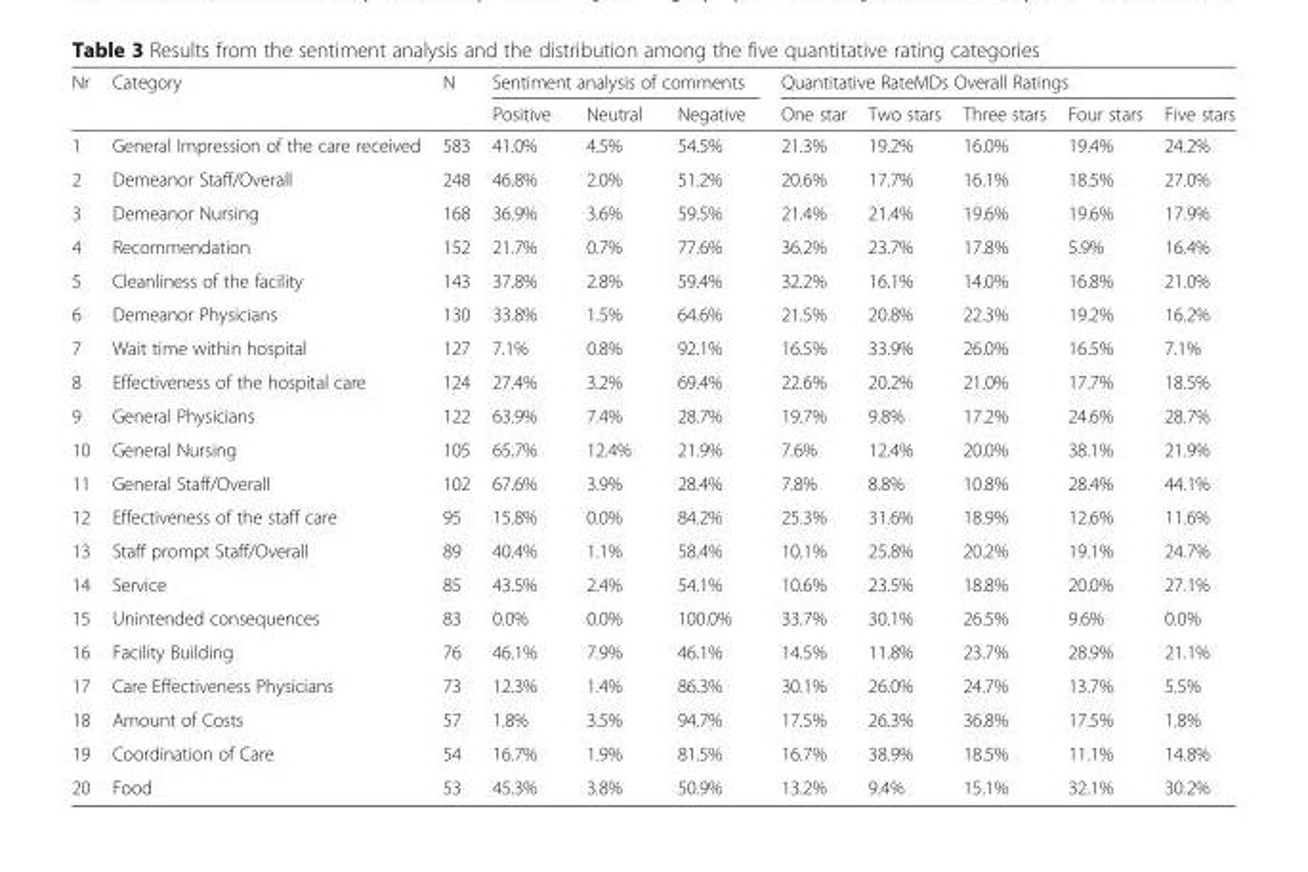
<table><thead><tr><td rowspan="2">Nr</td><td rowspan="2">Category</td><td rowspan="2">N</td><td colspan="3">Sentiment analysis of comments</td><td colspan="5">Quantitative RateMDs Overall Ratings</td></tr><tr><td>Positive</td><td>Neutral</td><td>Negative</td><td>One star</td><td>Two stars</td><td>Three stars</td><td>Four stars</td><td>Five stars</td></tr></thead><tbody><tr><td>1</td><td>General Impression of the care received</td><td>583</td><td>41.0%</td><td>4.5%</td><td>54.5%</td><td>21.3%</td><td>19.2%</td><td>16.0%</td><td>19.4%</td><td>24.2%</td></tr><tr><td>2</td><td>Demeanor Staff/Overall</td><td>248</td><td>46.8%</td><td>2.0%</td><td>51.2%</td><td>20.6%</td><td>17.7%</td><td>16.1%</td><td>18.5%</td><td>27.0%</td></tr><tr><td>3</td><td>Demeanor Nursing</td><td>168</td><td>36.9%</td><td>3.6%</td><td>59.5%</td><td>21.4%</td><td>21.4%</td><td>19.6%</td><td>19.6%</td><td>17.9%</td></tr><tr><td>4</td><td>Recommendation</td><td>152</td><td>21.7%</td><td>0.7%</td><td>77.6%</td><td>36.2%</td><td>23.7%</td><td>17.8%</td><td>5.9%</td><td>16.4%</td></tr><tr><td>5</td><td>Cleanliness of the facility</td><td>143</td><td>37.8%</td><td>2.8%</td><td>59.4%</td><td>32.2%</td><td>16.1%</td><td>14.0%</td><td>16.8%</td><td>21.0%</td></tr><tr><td>6</td><td>Demeanor Physicians</td><td>130</td><td>33.8%</td><td>1.5%</td><td>64.6%</td><td>21.5%</td><td>20.8%</td><td>22.3%</td><td>19.2%</td><td>16.2%</td></tr><tr><td>7</td><td>Wait time within hospital</td><td>127</td><td>7.1%</td><td>0.8%</td><td>92.1%</td><td>16.5%</td><td>33.9%</td><td>26.0%</td><td>16.5%</td><td>7.1%</td></tr><tr><td>8</td><td>Effectiveness of the hospital care</td><td>124</td><td>27.4%</td><td>3.2%</td><td>69.4%</td><td>22.6%</td><td>20.2%</td><td>21.0%</td><td>17.7%</td><td>18.5%</td></tr><tr><td>9</td><td>General Physicians</td><td>122</td><td>63.9%</td><td>7.4%</td><td>28.7%</td><td>19.7%</td><td>9.8%</td><td>17.2%</td><td>24.6%</td><td>28.7%</td></tr><tr><td>10</td><td>General Nursing</td><td>105</td><td>65.7%</td><td>12.4%</td><td>21.9%</td><td>7.6%</td><td>12.4%</td><td>20.0%</td><td>38.1%</td><td>21.9%</td></tr><tr><td>11</td><td>General Staff/Overall</td><td>102</td><td>67.6%</td><td>3.9%</td><td>28.4%</td><td>7.8%</td><td>8.8%</td><td>10.8%</td><td>28.4%</td><td>44.1%</td></tr><tr><td>12</td><td>Effectiveness of the staff care</td><td>95</td><td>15.8%</td><td>0.0%</td><td>84.2%</td><td>25.3%</td><td>31.6%</td><td>18.9%</td><td>12.6%</td><td>11.6%</td></tr><tr><td>13</td><td>Staff prompt Staff/Overall</td><td>89</td><td>40.4%</td><td>1.1%</td><td>58.4%</td><td>10.1%</td><td>25.8%</td><td>20.2%</td><td>19.1%</td><td>24.7%</td></tr><tr><td>14</td><td>Service</td><td>85</td><td>43.5%</td><td>2.4%</td><td>54.1%</td><td>10.6%</td><td>23.5%</td><td>18.8%</td><td>20.0%</td><td>27.1%</td></tr><tr><td>15</td><td>Unintended consequences</td><td>83</td><td>0.0%</td><td>0.0%</td><td>100.0%</td><td>33.7%</td><td>30.1%</td><td>26.5%</td><td>9.6%</td><td>0.0%</td></tr><tr><td>16</td><td>Facility Building</td><td>76</td><td>46.1%</td><td>7.9%</td><td>46.1%</td><td>14.5%</td><td>11.8%</td><td>23.7%</td><td>28.9%</td><td>21.1%</td></tr><tr><td>17</td><td>Care Effectiveness Physicians</td><td>73</td><td>12.3%</td><td>1.4%</td><td>86.3%</td><td>30.1%</td><td>26.0%</td><td>24.7%</td><td>13.7%</td><td>5.5%</td></tr><tr><td>18</td><td>Amount of Costs</td><td>57</td><td>1.8%</td><td>3.5%</td><td>94.7%</td><td>17.5%</td><td>26.3%</td><td>36.8%</td><td>17.5%</td><td>1.8%</td></tr><tr><td>19</td><td>Coordination of Care</td><td>54</td><td>16.7%</td><td>1.9%</td><td>81.5%</td><td>16.7%</td><td>38.9%</td><td>18.5%</td><td>11.1%</td><td>14.8%</td></tr><tr><td>20</td><td>Food</td><td>53</td><td>45.3%</td><td>3.8%</td><td>50.9%</td><td>13.2%</td><td>9.4%</td><td>15.1%</td><td>32.1%</td><td>30.2%</td></tr></tbody></table>